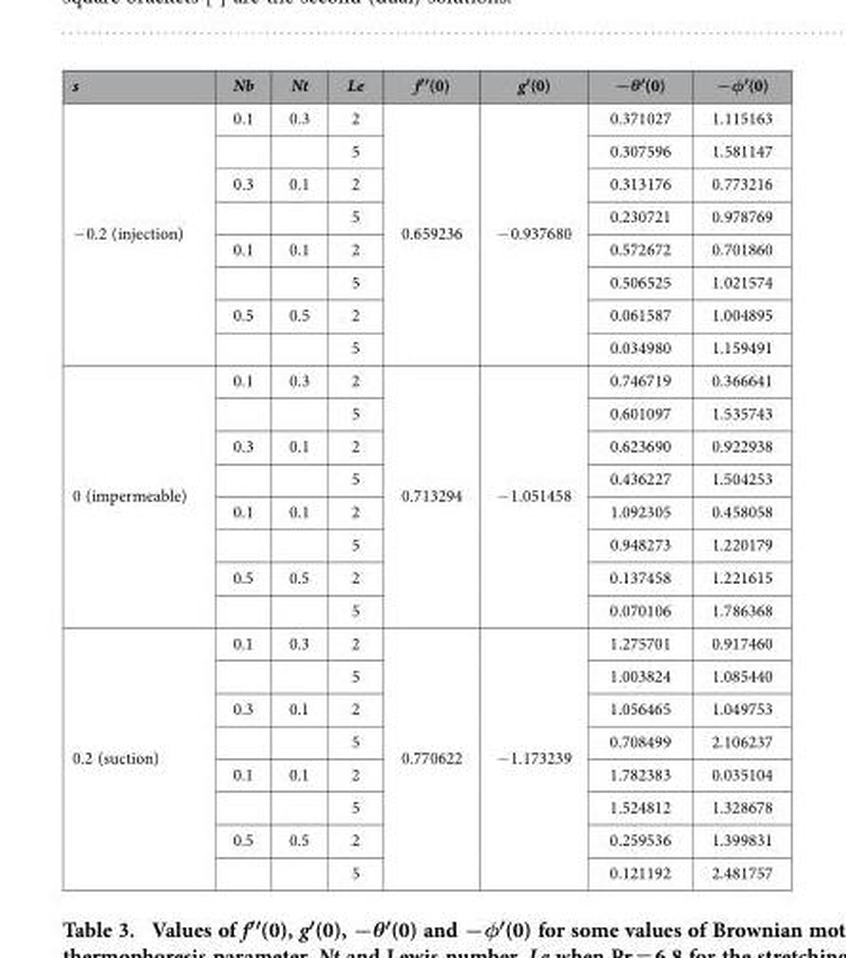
<table><thead><tr><td>s</td><td>Nb</td><td>Nt</td><td>Le</td><td>f′′(0)</td><td>g′(0)</td><td>−θ′(0)</td><td>−φ′(0)</td></tr></thead><tbody><tr><td rowspan="8">− 0.2 (injection)</td><td>0.1</td><td>0.3</td><td>2</td><td rowspan="8">0.659236</td><td rowspan="8">− 0.937680</td><td>0.371027</td><td>1.115163</td></tr><tr><td></td><td></td><td>5</td><td>0.307596</td><td>1.581147</td></tr><tr><td>0.3</td><td>0.1</td><td>2</td><td>0.313176</td><td>0.773216</td></tr><tr><td></td><td></td><td>5</td><td>0.230721</td><td>0.978769</td></tr><tr><td>0.1</td><td>0.1</td><td>2</td><td>0.572672</td><td>0.701860</td></tr><tr><td></td><td></td><td>5</td><td>0.506525</td><td>1.021574</td></tr><tr><td>0.5</td><td>0.5</td><td>2</td><td>0.061587</td><td>1.004895</td></tr><tr><td></td><td></td><td>5</td><td>0.034980</td><td>1.159491</td></tr><tr><td rowspan="8">0 (impermeable)</td><td>0.1</td><td>0.3</td><td>2</td><td rowspan="8">0.713294</td><td rowspan="8">− 1.051458</td><td>0.746719</td><td>0.366641</td></tr><tr><td></td><td></td><td>5</td><td>0.601097</td><td>1.535743</td></tr><tr><td>0.3</td><td>0.1</td><td>2</td><td>0.623690</td><td>0.922938</td></tr><tr><td></td><td></td><td>5</td><td>0.436227</td><td>1.504253</td></tr><tr><td>0.1</td><td>0.1</td><td>2</td><td>1.092305</td><td>0.458058</td></tr><tr><td></td><td></td><td>5</td><td>0.948273</td><td>1.220179</td></tr><tr><td>0.5</td><td>0.5</td><td>2</td><td>0.137458</td><td>1.221615</td></tr><tr><td></td><td></td><td>5</td><td>0.070106</td><td>1.786368</td></tr><tr><td rowspan="8">0.2 (suction)</td><td>0.1</td><td>0.3</td><td>2</td><td rowspan="8">0.770622</td><td rowspan="8">− 1.173239</td><td>1.275701</td><td>0.917460</td></tr><tr><td></td><td></td><td>5</td><td>1.003824</td><td>1.085440</td></tr><tr><td>0.3</td><td>0.1</td><td>2</td><td>1.056465</td><td>1.049753</td></tr><tr><td></td><td></td><td>5</td><td>0.708499</td><td>2.106237</td></tr><tr><td>0.1</td><td>0.1</td><td>2</td><td>1.782383</td><td>0.035104</td></tr><tr><td></td><td></td><td>5</td><td>1.524812</td><td>1.328678</td></tr><tr><td>0.5</td><td>0.5</td><td>2</td><td>0.259536</td><td>1.399831</td></tr><tr><td></td><td></td><td>5</td><td>0.121192</td><td>2.481757</td></tr></tbody></table>